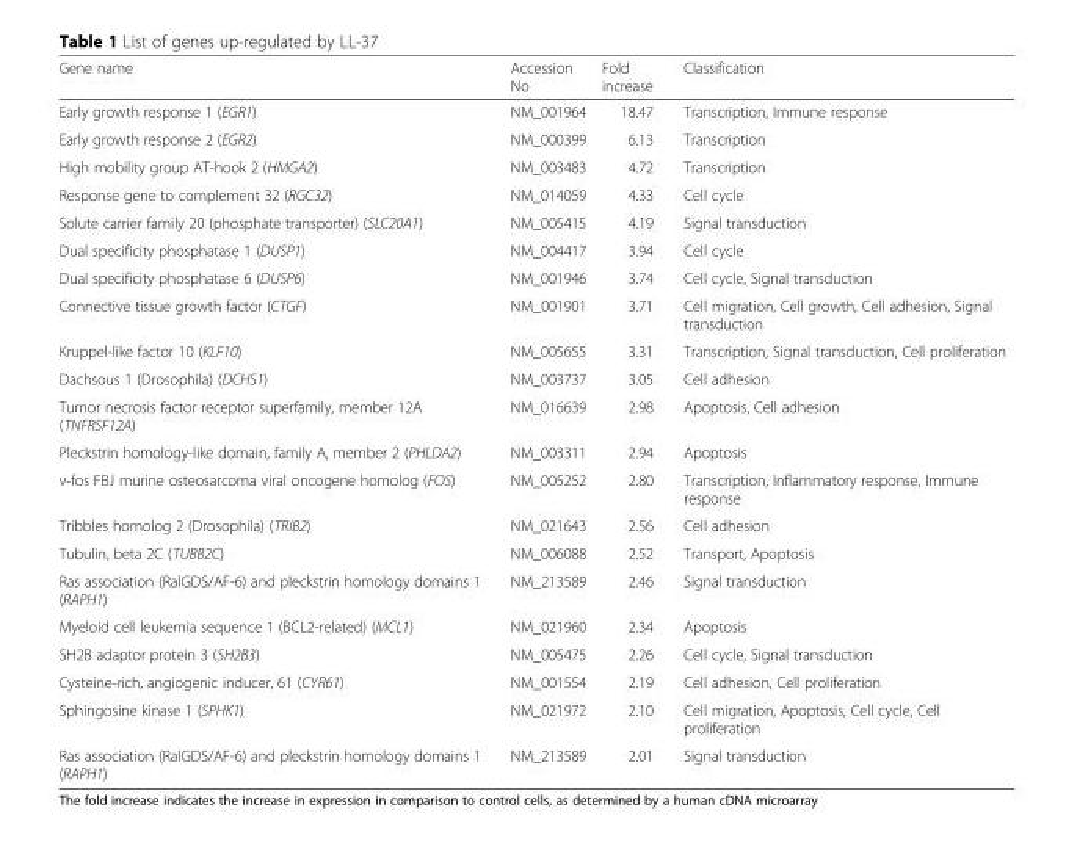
<table><thead><tr><td>Gene name</td><td>Accession No</td><td>Fold increase</td><td>Classification</td></tr></thead><tbody><tr><td>Early growth response 1 (EGR1)</td><td>NM_001964</td><td>18.47</td><td>Transcription, Immune response</td></tr><tr><td>Early growth response 2 (EGR2)</td><td>NM_000399</td><td>6.13</td><td>Transcription</td></tr><tr><td>High mobility group AT-hook 2 (HMGA2)</td><td>NM_003483</td><td>4.72</td><td>Transcription</td></tr><tr><td>Response gene to complement 32 (RGC32)</td><td>NM_014059</td><td>4.33</td><td>Cell cycle</td></tr><tr><td>Solute carrier family 20 (phosphate transporter) (SLC20A1)</td><td>NM_005415</td><td>4.19</td><td>Signal transduction</td></tr><tr><td>Dual specificity phosphatase 1 (DUSP1)</td><td>NM_004417</td><td>3.94</td><td>Cell cycle</td></tr><tr><td>Dual specificity phosphatase 6 (DUSP6)</td><td>NM_001946</td><td>3.74</td><td>Cell cycle, Signal transduction</td></tr><tr><td>Connective tissue growth factor (CTGF)</td><td>NM_001901</td><td>3.71</td><td>Cell migration, Cell growth, Cell adhesion, Signal transduction</td></tr><tr><td>Kruppel-like factor 10 (KLF10)</td><td>NM_005655</td><td>3.31</td><td>Transcription, Signal transduction, Cell proliferation</td></tr><tr><td>Dachsous 1 (Drosophila) (DCHS1)</td><td>NM_003737</td><td>3.05</td><td>Cell adhesion</td></tr><tr><td>Tumor necrosis factor receptor superfamily, member 12A (TNFRSF12A)</td><td>NM_016639</td><td>2.98</td><td>Apoptosis, Cell adhesion</td></tr><tr><td>Pleckstrin homology-like domain, family A, member 2 (PHLDA2)</td><td>NM_003311</td><td>2.94</td><td>Apoptosis</td></tr><tr><td>v-fos FBJ murine osteosarcoma viral oncogene homolog (FOS)</td><td>NM_005252</td><td>2.80</td><td>Transcription, Inflammatory response, Immune response</td></tr><tr><td>Tribbles homolog 2 (Drosophila) (TRIB2)</td><td>NM_021643</td><td>2.56</td><td>Cell adhesion</td></tr><tr><td>Tubulin, beta 2C (TUBB2C)</td><td>NM_006088</td><td>2.52</td><td>Transport, Apoptosis</td></tr><tr><td>Ras association (RalGDS/AF-6) and pleckstrin homology domains 1 (RAPH1)</td><td>NM_213589</td><td>2.46</td><td>Signal transduction</td></tr><tr><td>Myeloid cell leukemia sequence 1 (BCL2-related) (MCL1)</td><td>NM_021960</td><td>2.34</td><td>Apoptosis</td></tr><tr><td>SH2B adaptor protein 3 (SH2B3)</td><td>NM_005475</td><td>2.26</td><td>Cell cycle, Signal transduction</td></tr><tr><td>Cysteine-rich, angiogenic inducer, 61 (CYR61)</td><td>NM_001554</td><td>2.19</td><td>Cell adhesion, Cell proliferation</td></tr><tr><td>Sphingosine kinase 1 (SPHK1)</td><td>NM_021972</td><td>2.10</td><td>Cell migration, Apoptosis, Cell cycle, Cell proliferation</td></tr><tr><td>Ras association (RalGDS/AF-6) and pleckstrin homology domains 1 (RAPH1)</td><td>NM_213589</td><td>2.01</td><td>Signal transduction</td></tr></tbody></table>